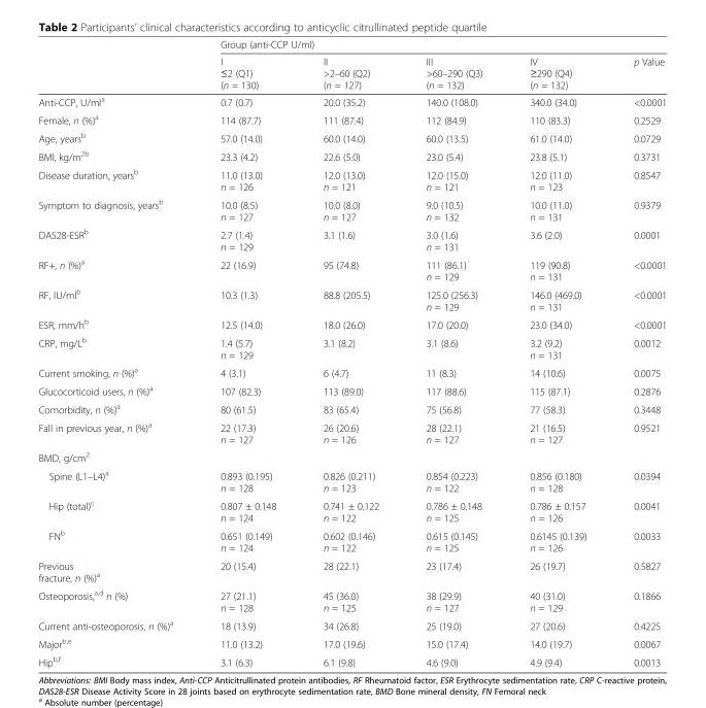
<table><thead><tr><td rowspan="2"></td><td colspan="5">Group (anti-CCP U/ml)</td></tr><tr><td>I ≤2 (Q1) (n = 130)</td><td>II &gt;2–60 (Q2) (n = 127)</td><td>III &gt;60–290 (Q3) (n = 132)</td><td>IV ≥290 (Q4) (n = 132)</td><td>p Value</td></tr></thead><tbody><tr><td>Anti-CCP, U/ml<sup>a</sup></td><td>0.7 (0.7)</td><td>20.0 (35.2)</td><td>140.0 (108.0)</td><td>340.0 (34.0)</td><td>&lt;0.0001</td></tr><tr><td>Female, n (%)<sup>a</sup></td><td>114 (87.7)</td><td>111 (87.4)</td><td>112 (84.9)</td><td>110 (83.3)</td><td>0.2529</td></tr><tr><td>Age, years<sup>b</sup></td><td>57.0 (14.0)</td><td>60.0 (14.0)</td><td>60.0 (13.5)</td><td>61.0 (14.0)</td><td>0.0729</td></tr><tr><td>BMI, kg/m<sup>2b</sup></td><td>23.3 (4.2)</td><td>22.6 (5.0)</td><td>23.0 (5.4)</td><td>23.8 (5.1)</td><td>0.3731</td></tr><tr><td>Disease duration, years<sup>b</sup></td><td>11.0 (13.0) n = 126</td><td>12.0 (13.0) n = 121</td><td>12.0 (15.0) n = 121</td><td>12.0 (11.0) n = 123</td><td>0.8547</td></tr><tr><td>Symptom to diagnosis, years<sup>b</sup></td><td>10.0 (8.5) n = 127</td><td>10.0 (8.0) n = 127</td><td>9.0 (10.5) n = 132</td><td>10.0 (11.0) n = 131</td><td>0.9379</td></tr><tr><td>DAS28-ESR<sup>b</sup></td><td>2.7 (1.4) n = 129</td><td>3.1 (1.6)</td><td>3.0 (1.6) n = 131</td><td>3.6 (2.0)</td><td>0.0001</td></tr><tr><td>RF+, n (%)<sup>a</sup></td><td>22 (16.9)</td><td>95 (74.8)</td><td>111 (86.1) n = 129</td><td>119 (90.8) n = 131</td><td>&lt;0.0001</td></tr><tr><td>RF, IU/ml<sup>b</sup></td><td>10.3 (1.3)</td><td>88.8 (205.5)</td><td>125.0 (256.3) n = 129</td><td>146.0 (469.0) n = 131</td><td>&lt;0.0001</td></tr><tr><td>ESR, mm/h<sup>b</sup></td><td>12.5 (14.0)</td><td>18.0 (26.0)</td><td>17.0 (20.0)</td><td>23.0 (34.0)</td><td>&lt;0.0001</td></tr><tr><td>CRP, mg/L<sup>b</sup></td><td>1.4 (5.7) n = 129</td><td>3.1 (8.2)</td><td>3.1 (8.6)</td><td>3.2 (9.2) n = 131</td><td>0.0012</td></tr><tr><td>Current smoking, n (%)<sup>a</sup></td><td>4 (3.1)</td><td>6 (4.7)</td><td>11 (8.3)</td><td>14 (10.6)</td><td>0.0075</td></tr><tr><td>Glucocorticoid users, n (%)<sup>a</sup></td><td>107 (82.3)</td><td>113 (89.0)</td><td>117 (88.6)</td><td>115 (87.1)</td><td>0.2876</td></tr><tr><td>Comorbidity, n (%)<sup>a</sup></td><td>80 (61.5)</td><td>83 (65.4)</td><td>75 (56.8)</td><td>77 (58.3)</td><td>0.3448</td></tr><tr><td>Fall in previous year, n (%)<sup>a</sup></td><td>22 (17.3) n = 127</td><td>26 (20.6) n = 126</td><td>28 (22.1) n = 127</td><td>21 (16.5) n = 127</td><td>0.9521</td></tr><tr><td colspan="6">BMD, g/cm<sup>2</sup></td></tr><tr><td>Spine (L1–L4)<sup>a</sup></td><td>0.893 (0.195) n = 128</td><td>0.826 (0.211) n = 123</td><td>0.854 (0.223) n = 122</td><td>0.856 (0.180) n = 128</td><td>0.0394</td></tr><tr><td>Hip (total)<sup>c</sup></td><td>0.807 ± 0.148 n = 124</td><td>0.741 ± 0.122 n = 122</td><td>0.786 ± 0.148 n = 125</td><td>0.786 ± 0.157 n = 126</td><td>0.0041</td></tr><tr><td>FN<sup>b</sup></td><td>0.651 (0.149) n = 124</td><td>0.602 (0.146) n = 122</td><td>0.615 (0.145) n = 125</td><td>0.6145 (0.139) n = 126</td><td>0.0033</td></tr><tr><td>Previous fracture, n (%)<sup>a</sup></td><td>20 (15.4)</td><td>28 (22.1)</td><td>23 (17.4)</td><td>26 (19.7)</td><td>0.5827</td></tr><tr><td>Osteoporosis,<sup>a,d</sup> n (%)</td><td>27 (21.1) n = 128</td><td>45 (36.0) n = 125</td><td>38 (29.9) n = 127</td><td>40 (31.0) n = 129</td><td>0.1866</td></tr><tr><td>Current anti-osteoporosis, n (%)<sup>a</sup></td><td>18 (13.9)</td><td>34 (26.8)</td><td>25 (19.0)</td><td>27 (20.6)</td><td>0.4225</td></tr><tr><td>Major<sup>b,e</sup></td><td>11.0 (13.2)</td><td>17.0 (19.6)</td><td>15.0 (17.4)</td><td>14.0 (19.7)</td><td>0.0067</td></tr><tr><td>Hip<sup>b,f</sup></td><td>3.1 (6.3)</td><td>6.1 (9.8)</td><td>4.6 (9.0)</td><td>4.9 (9.4)</td><td>0.0013</td></tr></tbody></table>